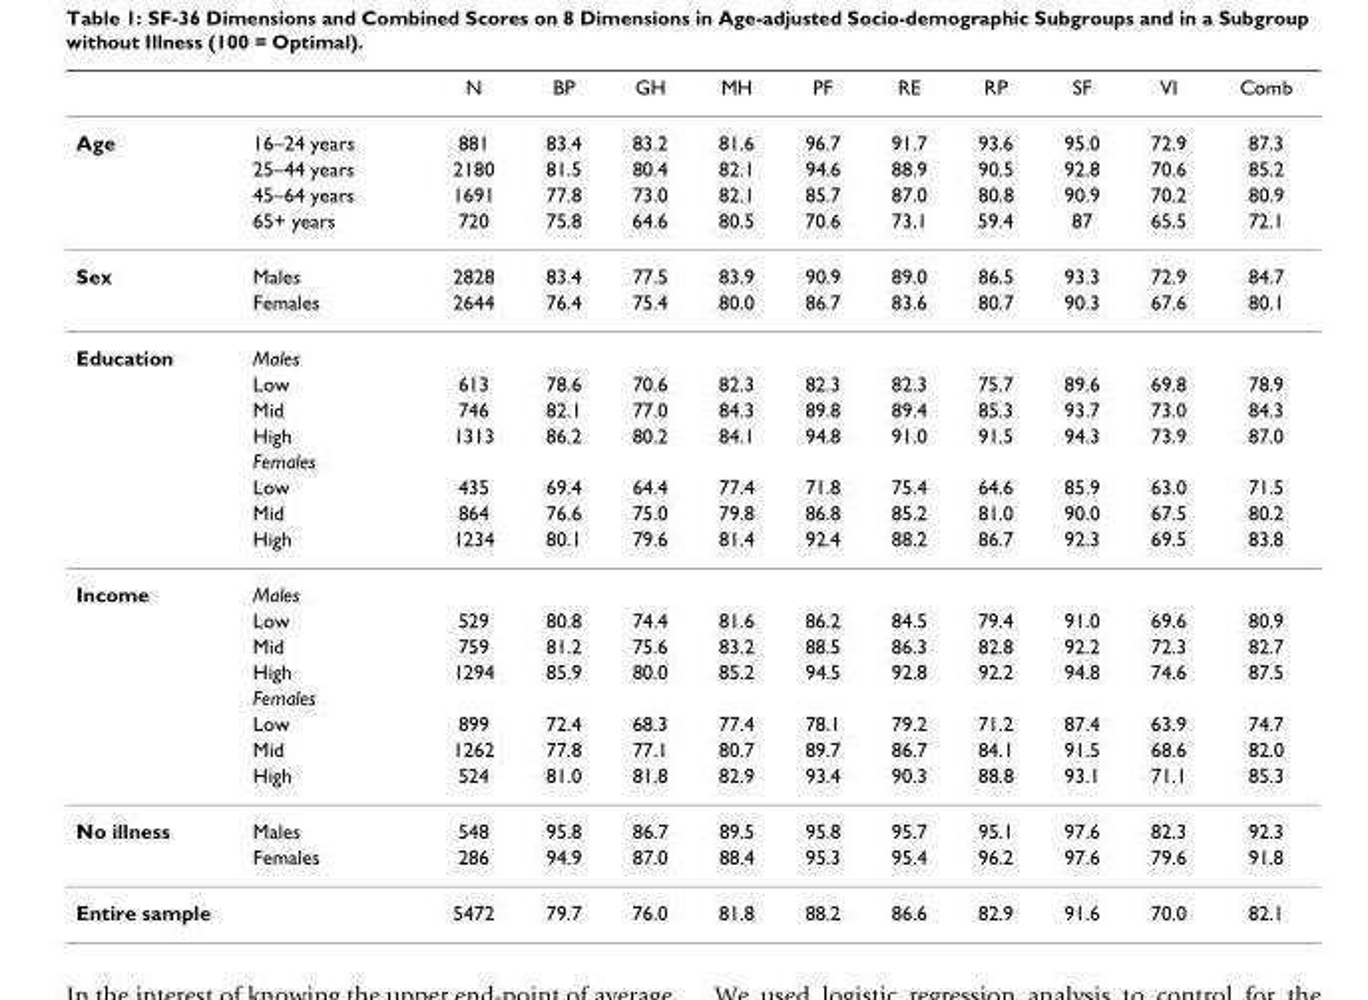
<table><thead><tr><td></td><td></td><td>N</td><td>BP</td><td>GH</td><td>MH</td><td>PF</td><td>RE</td><td>RP</td><td>SF</td><td>VI</td><td>Comb</td></tr></thead><tbody><tr><td rowspan="4">Age</td><td>16–24 years</td><td>881</td><td>83.4</td><td>83.2</td><td>81.6</td><td>96.7</td><td>91.7</td><td>93.6</td><td>95.0</td><td>72.9</td><td>87.3</td></tr><tr><td>25–44 years</td><td>2180</td><td>81.5</td><td>80.4</td><td>82.1</td><td>94.6</td><td>88.9</td><td>90.5</td><td>92.8</td><td>70.6</td><td>85.2</td></tr><tr><td>45–64 years</td><td>1691</td><td>77.8</td><td>73.0</td><td>82.1</td><td>85.7</td><td>87.0</td><td>80.8</td><td>90.9</td><td>70.2</td><td>80.9</td></tr><tr><td>65+ years</td><td>720</td><td>75.8</td><td>64.6</td><td>80.5</td><td>70.6</td><td>73.1</td><td>59.4</td><td>87</td><td>65.5</td><td>72.1</td></tr><tr><td rowspan="2">Sex</td><td>Males</td><td>2828</td><td>83.4</td><td>77.5</td><td>83.9</td><td>90.9</td><td>89.0</td><td>86.5</td><td>93.3</td><td>72.9</td><td>84.7</td></tr><tr><td>Females</td><td>2644</td><td>76.4</td><td>75.4</td><td>80.0</td><td>86.7</td><td>83.6</td><td>80.7</td><td>90.3</td><td>67.6</td><td>80.1</td></tr><tr><td rowspan="8">Education</td><td>Males</td><td></td><td></td><td></td><td></td><td></td><td></td><td></td><td></td><td></td><td></td></tr><tr><td>Low</td><td>613</td><td>78.6</td><td>70.6</td><td>82.3</td><td>82.3</td><td>82.3</td><td>75.7</td><td>89.6</td><td>69.8</td><td>78.9</td></tr><tr><td>Mid</td><td>746</td><td>82.1</td><td>77.0</td><td>84.3</td><td>89.8</td><td>89.4</td><td>85.3</td><td>93.7</td><td>73.0</td><td>84.3</td></tr><tr><td>High</td><td>1313</td><td>86.2</td><td>80.2</td><td>84.1</td><td>94.8</td><td>91.0</td><td>91.5</td><td>94.3</td><td>73.9</td><td>87.0</td></tr><tr><td>Females</td><td></td><td></td><td></td><td></td><td></td><td></td><td></td><td></td><td></td><td></td></tr><tr><td>Low</td><td>435</td><td>69.4</td><td>64.4</td><td>77.4</td><td>71.8</td><td>75.4</td><td>64.6</td><td>85.9</td><td>63.0</td><td>71.5</td></tr><tr><td>Mid</td><td>864</td><td>76.6</td><td>75.0</td><td>79.8</td><td>86.8</td><td>85.2</td><td>81.0</td><td>90.0</td><td>67.5</td><td>80.2</td></tr><tr><td>High</td><td>1234</td><td>80.1</td><td>79.6</td><td>81.4</td><td>92.4</td><td>88.2</td><td>86.7</td><td>92.3</td><td>69.5</td><td>83.8</td></tr><tr><td rowspan="8">Income</td><td>Males</td><td></td><td></td><td></td><td></td><td></td><td></td><td></td><td></td><td></td><td></td></tr><tr><td>Low</td><td>529</td><td>80.8</td><td>74.4</td><td>81.6</td><td>86.2</td><td>84.5</td><td>79.4</td><td>91.0</td><td>69.6</td><td>80.9</td></tr><tr><td>Mid</td><td>759</td><td>81.2</td><td>75.6</td><td>83.2</td><td>88.5</td><td>86.3</td><td>82.8</td><td>92.2</td><td>72.3</td><td>82.7</td></tr><tr><td>High</td><td>1294</td><td>85.9</td><td>80.0</td><td>85.2</td><td>94.5</td><td>92.8</td><td>92.2</td><td>94.8</td><td>74.6</td><td>87.5</td></tr><tr><td>Females</td><td></td><td></td><td></td><td></td><td></td><td></td><td></td><td></td><td></td><td></td></tr><tr><td>Low</td><td>899</td><td>72.4</td><td>68.3</td><td>77.4</td><td>78.1</td><td>79.2</td><td>71.2</td><td>87.4</td><td>63.9</td><td>74.7</td></tr><tr><td>Mid</td><td>1262</td><td>77.8</td><td>77.1</td><td>80.7</td><td>89.7</td><td>86.7</td><td>84.1</td><td>91.5</td><td>68.6</td><td>82.0</td></tr><tr><td>High</td><td>524</td><td>81.0</td><td>81.8</td><td>82.9</td><td>93.4</td><td>90.3</td><td>88.8</td><td>93.1</td><td>71.1</td><td>85.3</td></tr><tr><td rowspan="2">No illness</td><td>Males</td><td>548</td><td>95.8</td><td>86.7</td><td>89.5</td><td>95.8</td><td>95.7</td><td>95.1</td><td>97.6</td><td>82.3</td><td>92.3</td></tr><tr><td>Females</td><td>286</td><td>94.9</td><td>87.0</td><td>88.4</td><td>95.3</td><td>95.4</td><td>96.2</td><td>97.6</td><td>79.6</td><td>91.8</td></tr><tr><td colspan="2">Entire sample</td><td>5472</td><td>79.7</td><td>76.0</td><td>81.8</td><td>88.2</td><td>86.6</td><td>82.9</td><td>91.6</td><td>70.0</td><td>82.1</td></tr></tbody></table>